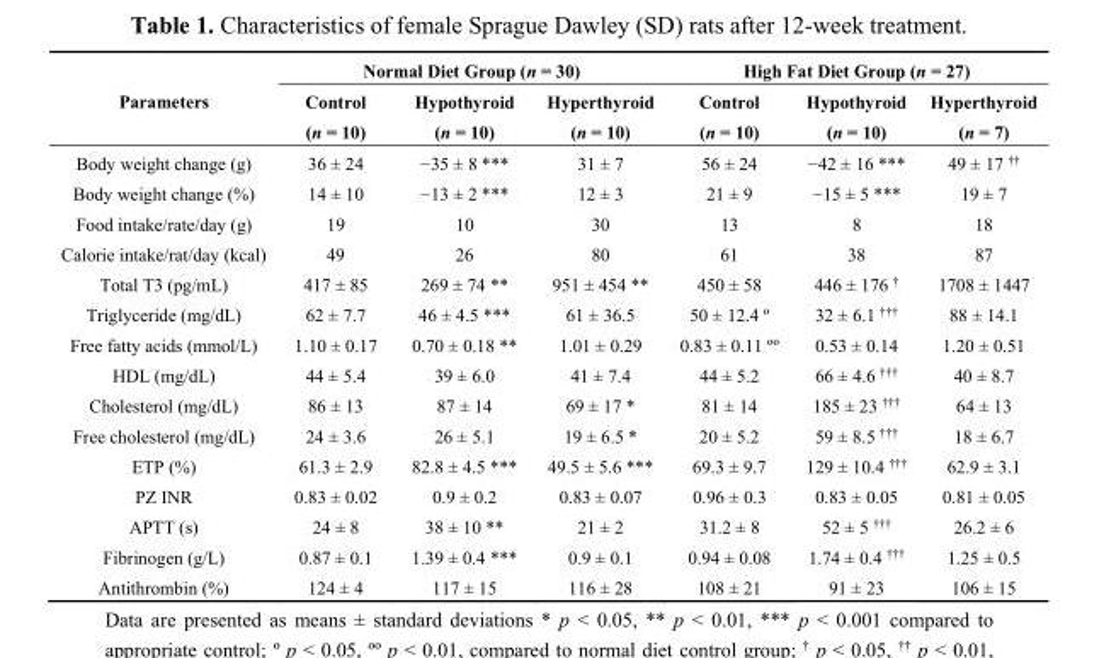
<table><thead><tr><td rowspan="2">Parameters</td><td colspan="3">Normal Diet Group (n = 30)</td><td colspan="3">High Fat Diet Group (n = 27)</td></tr><tr><td>Control (n = 10)</td><td>Hypothyroid (n = 10)</td><td>Hyperthyroid (n = 10)</td><td>Control (n = 10)</td><td>Hypothyroid (n = 10)</td><td>Hyperthyroid (n = 7)</td></tr></thead><tbody><tr><td>Body weight change (g)</td><td>36 ± 24</td><td>−35 ± 8 ***</td><td>31 ± 7</td><td>56 ± 24</td><td>−42 ± 16 ***</td><td>49 ± 17 <sup>††</sup></td></tr><tr><td>Body weight change (%)</td><td>14 ± 10</td><td>−13 ± 2 ***</td><td>12 ± 3</td><td>21 ± 9</td><td>−15 ± 5 ***</td><td>19 ± 7</td></tr><tr><td>Food intake/rate/day (g)</td><td>19</td><td>10</td><td>30</td><td>13</td><td>8</td><td>18</td></tr><tr><td>Calorie intake/rat/day (kcal)</td><td>49</td><td>26</td><td>80</td><td>61</td><td>38</td><td>87</td></tr><tr><td>Total T3 (pg/mL)</td><td>417 ± 85</td><td>269 ± 74 **</td><td>951 ± 454 **</td><td>450 ± 58</td><td>446 ± 176 <sup>†</sup></td><td>1708 ± 1447</td></tr><tr><td>Triglyceride (mg/dL)</td><td>62 ± 7.7</td><td>46 ± 4.5 ***</td><td>61 ± 36.5</td><td>50 ± 12.4 º</td><td>32 ± 6.1 <sup>†††</sup></td><td>88 ± 14.1</td></tr><tr><td>Free fatty acids (mmol/L)</td><td>1.10 ± 0.17</td><td>0.70 ± 0.18 **</td><td>1.01 ± 0.29</td><td>0.83 ± 0.11 ºº</td><td>0.53 ± 0.14</td><td>1.20 ± 0.51</td></tr><tr><td>HDL (mg/dL)</td><td>44 ± 5.4</td><td>39 ± 6.0</td><td>41 ± 7.4</td><td>44 ± 5.2</td><td>66 ± 4.6 <sup>†††</sup></td><td>40 ± 8.7</td></tr><tr><td>Cholesterol (mg/dL)</td><td>86 ± 13</td><td>87 ± 14</td><td>69 ± 17 *</td><td>81 ± 14</td><td>185 ± 23 <sup>†††</sup></td><td>64 ± 13</td></tr><tr><td>Free cholesterol (mg/dL)</td><td>24 ± 3.6</td><td>26 ± 5.1</td><td>19 ± 6.5 *</td><td>20 ± 5.2</td><td>59 ± 8.5 <sup>†††</sup></td><td>18 ± 6.7</td></tr><tr><td>ETP (%)</td><td>61.3 ± 2.9</td><td>82.8 ± 4.5 ***</td><td>49.5 ± 5.6 ***</td><td>69.3 ± 9.7</td><td>129 ± 10.4 <sup>†††</sup></td><td>62.9 ± 3.1</td></tr><tr><td>PZ INR</td><td>0.83 ± 0.02</td><td>0.9 ± 0.2</td><td>0.83 ± 0.07</td><td>0.96 ± 0.3</td><td>0.83 ± 0.05</td><td>0.81 ± 0.05</td></tr><tr><td>APTT (s)</td><td>24 ± 8</td><td>38 ± 10 **</td><td>21 ± 2</td><td>31.2 ± 8</td><td>52 ± 5 <sup>†††</sup></td><td>26.2 ± 6</td></tr><tr><td>Fibrinogen (g/L)</td><td>0.87 ± 0.1</td><td>1.39 ± 0.4 ***</td><td>0.9 ± 0.1</td><td>0.94 ± 0.08</td><td>1.74 ± 0.4 <sup>†††</sup></td><td>1.25 ± 0.5</td></tr><tr><td>Antithrombin (%)</td><td>124 ± 4</td><td>117 ± 15</td><td>116 ± 28</td><td>108 ± 21</td><td>91 ± 23</td><td>106 ± 15</td></tr></tbody></table>